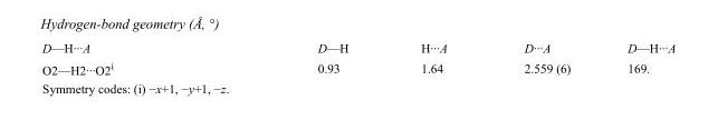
<table><tbody><tr><td>D—H···A</td><td>D—H</td><td>H···A</td><td>D···A</td><td>D—H···A</td></tr><tr><td>O2—H2···O2<sup>i</sup></td><td>0.93</td><td>1.64</td><td>2.559 (6)</td><td>169.</td></tr></tbody></table>